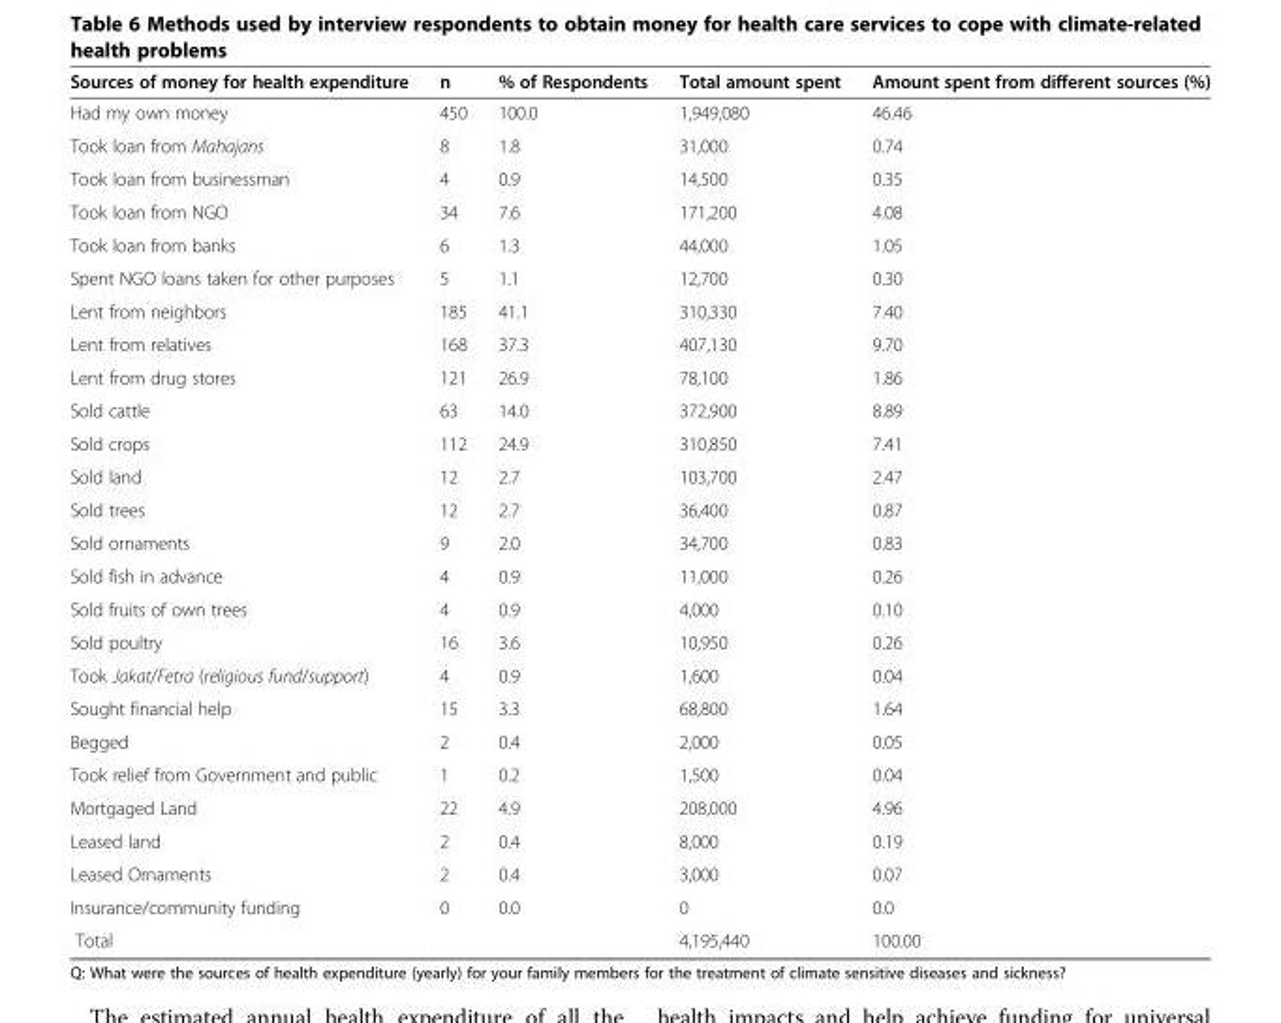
<table><thead><tr><td>Sources of money for health expenditure</td><td>n</td><td>% of Respondents</td><td>Total amount spent</td><td>Amount spent from different sources (%)</td></tr></thead><tbody><tr><td>Had my own money</td><td>450</td><td>100.0</td><td>1,949,080</td><td>46.46</td></tr><tr><td>Took loan from Mahajans</td><td>8</td><td>1.8</td><td>31,000</td><td>0.74</td></tr><tr><td>Took loan from businessman</td><td>4</td><td>0.9</td><td>14,500</td><td>0.35</td></tr><tr><td>Took loan from NGO</td><td>34</td><td>7.6</td><td>171,200</td><td>4.08</td></tr><tr><td>Took loan from banks</td><td>6</td><td>1.3</td><td>44,000</td><td>1.05</td></tr><tr><td>Spent NGO loans taken for other purposes</td><td>5</td><td>1.1</td><td>12,700</td><td>0.30</td></tr><tr><td>Lent from neighbors</td><td>185</td><td>41.1</td><td>310,330</td><td>7.40</td></tr><tr><td>Lent from relatives</td><td>168</td><td>37.3</td><td>407,130</td><td>9.70</td></tr><tr><td>Lent from drug stores</td><td>121</td><td>26.9</td><td>78,100</td><td>1.86</td></tr><tr><td>Sold cattle</td><td>63</td><td>14.0</td><td>372,900</td><td>8.89</td></tr><tr><td>Sold crops</td><td>112</td><td>24.9</td><td>310,850</td><td>7.41</td></tr><tr><td>Sold land</td><td>12</td><td>2.7</td><td>103,700</td><td>2.47</td></tr><tr><td>Sold trees</td><td>12</td><td>2.7</td><td>36,400</td><td>0.87</td></tr><tr><td>Sold ornaments</td><td>9</td><td>2.0</td><td>34,700</td><td>0.83</td></tr><tr><td>Sold fish in advance</td><td>4</td><td>0.9</td><td>11,000</td><td>0.26</td></tr><tr><td>Sold fruits of own trees</td><td>4</td><td>0.9</td><td>4,000</td><td>0.10</td></tr><tr><td>Sold poultry</td><td>16</td><td>3.6</td><td>10,950</td><td>0.26</td></tr><tr><td>Took Jakat/Fetra (religious fund/support)</td><td>4</td><td>0.9</td><td>1,600</td><td>0.04</td></tr><tr><td>Sought financial help</td><td>15</td><td>3.3</td><td>68,800</td><td>1.64</td></tr><tr><td>Begged</td><td>2</td><td>0.4</td><td>2,000</td><td>0.05</td></tr><tr><td>Took relief from Government and public</td><td>1</td><td>0.2</td><td>1,500</td><td>0.04</td></tr><tr><td>Mortgaged Land</td><td>22</td><td>4.9</td><td>208,000</td><td>4.96</td></tr><tr><td>Leased land</td><td>2</td><td>0.4</td><td>8,000</td><td>0.19</td></tr><tr><td>Leased Ornaments</td><td>2</td><td>0.4</td><td>3,000</td><td>0.07</td></tr><tr><td>Insurance/community funding</td><td>0</td><td>0.0</td><td>0</td><td>0.0</td></tr><tr><td>Total</td><td></td><td></td><td>4,195,440</td><td>100.00</td></tr></tbody></table>